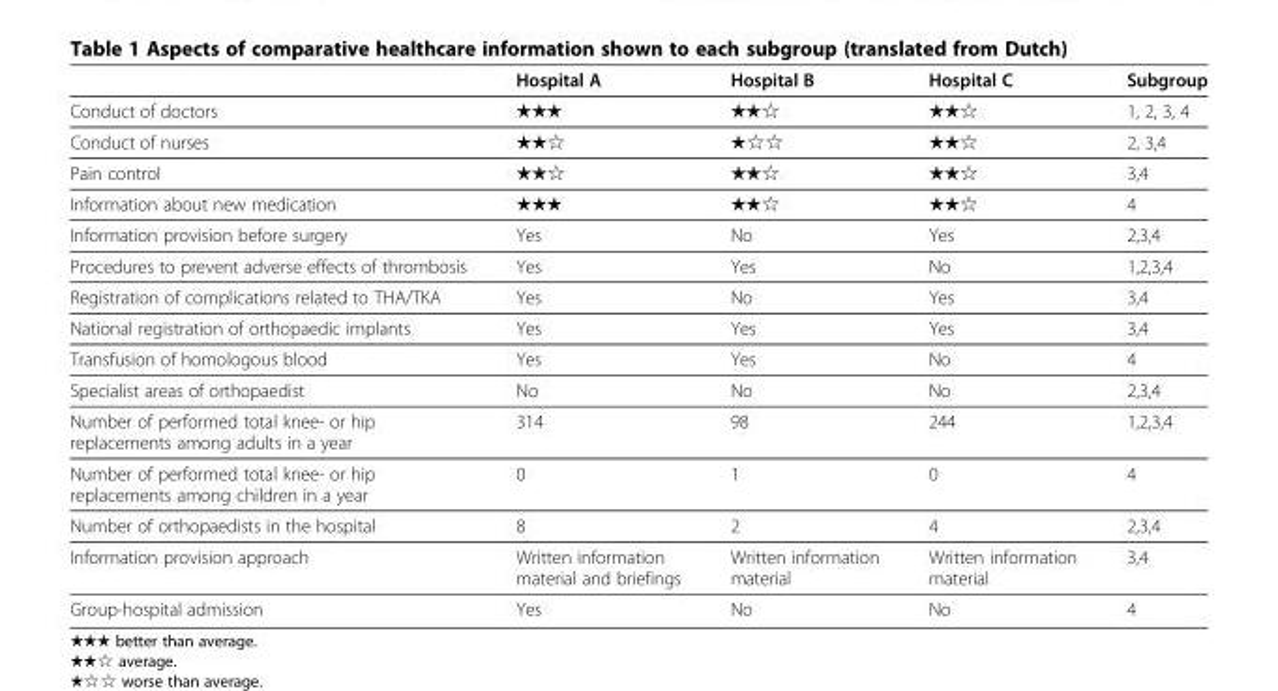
<table><thead><tr><td></td><td>Hospital A</td><td>Hospital B</td><td>Hospital C</td><td>Subgroup</td></tr></thead><tbody><tr><td>Conduct of doctors</td><td>★★★</td><td>★★☆</td><td>★★☆</td><td>1, 2, 3, 4</td></tr><tr><td>Conduct of nurses</td><td>★★☆</td><td>★☆☆</td><td>★★☆</td><td>2, 3,4</td></tr><tr><td>Pain control</td><td>★★☆</td><td>★★☆</td><td>★★☆</td><td>3,4</td></tr><tr><td>Information about new medication</td><td>★★★</td><td>★★☆</td><td>★★☆</td><td>4</td></tr><tr><td>Information provision before surgery</td><td>Yes</td><td>No</td><td>Yes</td><td>2,3,4</td></tr><tr><td>Procedures to prevent adverse effects of thrombosis</td><td>Yes</td><td>Yes</td><td>No</td><td>1,2,3,4</td></tr><tr><td>Registration of complications related to THA/TKA</td><td>Yes</td><td>No</td><td>Yes</td><td>3,4</td></tr><tr><td>National registration of orthopaedic implants</td><td>Yes</td><td>Yes</td><td>Yes</td><td>3,4</td></tr><tr><td>Transfusion of homologous blood</td><td>Yes</td><td>Yes</td><td>No</td><td>4</td></tr><tr><td>Specialist areas of orthopaedist</td><td>No</td><td>No</td><td>No</td><td>2,3,4</td></tr><tr><td>Number of performed total knee- or hip replacements among adults in a year</td><td>314</td><td>98</td><td>244</td><td>1,2,3,4</td></tr><tr><td>Number of performed total knee- or hip replacements among children in a year</td><td>0</td><td>1</td><td>0</td><td>4</td></tr><tr><td>Number of orthopaedists in the hospital</td><td>8</td><td>2</td><td>4</td><td>2,3,4</td></tr><tr><td>Information provision approach</td><td>Written information material and briefings</td><td>Written information material</td><td>Written information material</td><td>3,4</td></tr><tr><td>Group-hospital admission</td><td>Yes</td><td>No</td><td>No</td><td>4</td></tr></tbody></table>